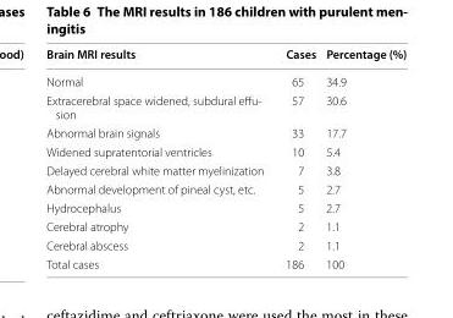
<table><thead><tr><td>Brain MRI results</td><td>Cases</td><td>Percentage (%)</td></tr></thead><tbody><tr><td>Normal</td><td>65</td><td>34.9</td></tr><tr><td>Extracerebral space widened, subdural effu- sion</td><td>57</td><td>30.6</td></tr><tr><td>Abnormal brain signals</td><td>33</td><td>17.7</td></tr><tr><td>Widened supratentorial ventricles</td><td>10</td><td>5.4</td></tr><tr><td>Delayed cerebral white matter myelinization</td><td>7</td><td>3.8</td></tr><tr><td>Abnormal development of pineal cyst, etc.</td><td>5</td><td>2.7</td></tr><tr><td>Hydrocephalus</td><td>5</td><td>2.7</td></tr><tr><td>Cerebral atrophy</td><td>2</td><td>1.1</td></tr><tr><td>Cerebral abscess</td><td>2</td><td>1.1</td></tr><tr><td>Total cases</td><td>186</td><td>100</td></tr></tbody></table>